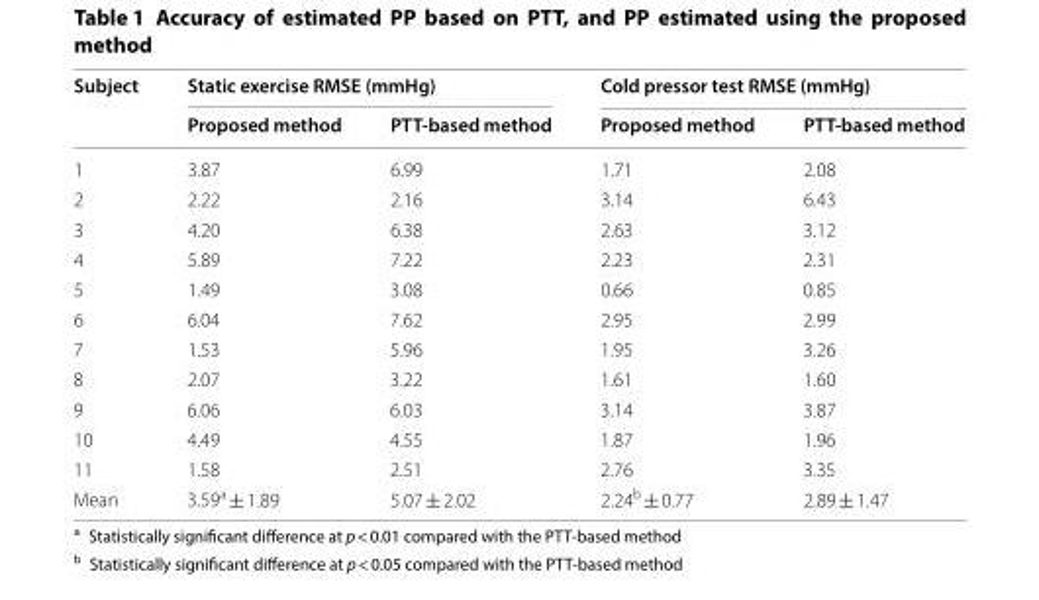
<table><thead><tr><td rowspan="2">Subject</td><td colspan="2">Static exercise RMSE (mmHg)</td><td colspan="2">Cold pressor test RMSE (mmHg)</td></tr><tr><td>Proposed method</td><td>PTT-based method</td><td>Proposed method</td><td>PTT-based method</td></tr></thead><tbody><tr><td>1</td><td>3.87</td><td>6.99</td><td>1.71</td><td>2.08</td></tr><tr><td>2</td><td>2.22</td><td>2.16</td><td>3.14</td><td>6.43</td></tr><tr><td>3</td><td>4.20</td><td>6.38</td><td>2.63</td><td>3.12</td></tr><tr><td>4</td><td>5.89</td><td>7.22</td><td>2.23</td><td>2.31</td></tr><tr><td>5</td><td>1.49</td><td>3.08</td><td>0.66</td><td>0.85</td></tr><tr><td>6</td><td>6.04</td><td>7.62</td><td>2.95</td><td>2.99</td></tr><tr><td>7</td><td>1.53</td><td>5.96</td><td>1.95</td><td>3.26</td></tr><tr><td>8</td><td>2.07</td><td>3.22</td><td>1.61</td><td>1.60</td></tr><tr><td>9</td><td>6.06</td><td>6.03</td><td>3.14</td><td>3.87</td></tr><tr><td>10</td><td>4.49</td><td>4.55</td><td>1.87</td><td>1.96</td></tr><tr><td>11</td><td>1.58</td><td>2.51</td><td>2.76</td><td>3.35</td></tr><tr><td>Mean</td><td>3.59<sup>a</sup> ± 1.89</td><td>5.07 ± 2.02</td><td>2.24<sup>b</sup> ± 0.77</td><td>2.89 ± 1.47</td></tr></tbody></table>